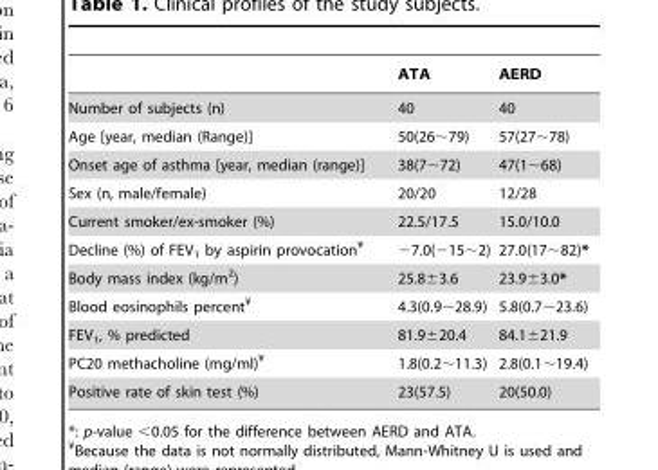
<table><thead><tr><td></td><td>ATA</td><td>AERD</td></tr></thead><tbody><tr><td>Number of subjects (n)</td><td>40</td><td>40</td></tr><tr><td>Age [year, median (Range)]</td><td>50(26∼79)</td><td>57(27∼78)</td></tr><tr><td>Onset age of asthma [year, median (range)]</td><td>38(7∼72)</td><td>47(1∼68)</td></tr><tr><td>Sex (n, male/female)</td><td>20/20</td><td>12/28</td></tr><tr><td>Current smoker/ex-smoker (%)</td><td>22.5/17.5</td><td>15.0/10.0</td></tr><tr><td>Decline (%) of FEV<sub>1</sub> by aspirin provocation¥</td><td>−7.0(−15∼2)</td><td>27.0(17∼82)*</td></tr><tr><td>Body mass index (kg/m<sup>2</sup>)</td><td>25.8±3.6</td><td>23.9±3.0*</td></tr><tr><td>Blood eosinophils percent¥</td><td>4.3(0.9∼28.9)</td><td>5.8(0.7∼23.6)</td></tr><tr><td>FEV<sub>1</sub>, % predicted</td><td>81.9±20.4</td><td>84.1±21.9</td></tr><tr><td>PC20 methacholine (mg/ml)¥</td><td>1.8(0.2∼11.3)</td><td>2.8(0.1∼19.4)</td></tr><tr><td>Positive rate of skin test (%)</td><td>23(57.5)</td><td>20(50.0)</td></tr></tbody></table>